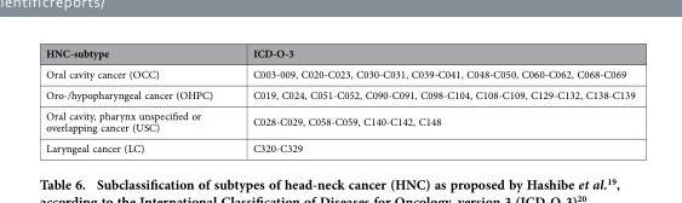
<table><thead><tr><td>HNC-subtype</td><td>ICD-O-3</td></tr></thead><tbody><tr><td>Oral cavity cancer (OCC)</td><td>C003-009, C020-C023, C030-C031, C039-C041, C048-C050, C060-C062, C068-C069</td></tr><tr><td>Oro-/hypopharyngeal cancer (OHPC)</td><td>C019, C024, C051-C052, C090-C091, C098-C104, C108-C109, C129-C132, C138-C139</td></tr><tr><td>Oral cavity, pharynx unspecified or overlapping cancer (USC)</td><td>C028-C029, C058-C059, C140-C142, C148</td></tr><tr><td>Laryngeal cancer (LC)</td><td>C320-C329</td></tr></tbody></table>